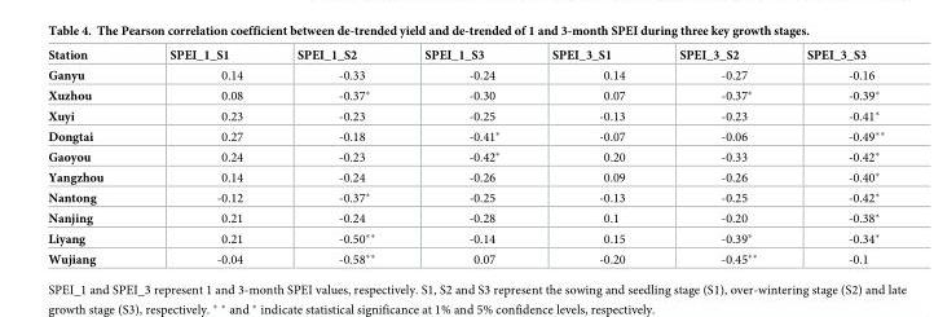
<table><thead><tr><td>Station</td><td>SPEI_1_S1</td><td>SPEI_1_S2</td><td>SPEI_1_S3</td><td>SPEI_3_S1</td><td>SPEI_3_S2</td><td>SPEI_3_S3</td></tr></thead><tbody><tr><td>Ganyu</td><td>0.14</td><td>-0.33</td><td>-0.24</td><td>0.14</td><td>-0.27</td><td>-0.16</td></tr><tr><td>Xuzhou</td><td>0.08</td><td>-0.37*</td><td>-0.30</td><td>0.07</td><td>-0.37*</td><td>-0.39*</td></tr><tr><td>Xuyi</td><td>0.23</td><td>-0.23</td><td>-0.25</td><td>-0.13</td><td>-0.23</td><td>-0.41*</td></tr><tr><td>Dongtai</td><td>0.27</td><td>-0.18</td><td>-0.41*</td><td>-0.07</td><td>-0.06</td><td>-0.49**</td></tr><tr><td>Gaoyou</td><td>0.24</td><td>-0.23</td><td>-0.42*</td><td>0.20</td><td>-0.33</td><td>-0.42*</td></tr><tr><td>Yangzhou</td><td>0.14</td><td>-0.24</td><td>-0.26</td><td>0.09</td><td>-0.26</td><td>-0.40*</td></tr><tr><td>Nantong</td><td>-0.12</td><td>-0.37*</td><td>-0.25</td><td>-0.13</td><td>-0.25</td><td>-0.42*</td></tr><tr><td>Nanjing</td><td>0.21</td><td>-0.24</td><td>-0.28</td><td>0.1</td><td>-0.20</td><td>-0.38*</td></tr><tr><td>Liyang</td><td>0.21</td><td>-0.50**</td><td>-0.14</td><td>0.15</td><td>-0.39*</td><td>-0.34*</td></tr><tr><td>Wujiang</td><td>-0.04</td><td>-0.58**</td><td>0.07</td><td>-0.20</td><td>-0.45**</td><td>-0.1</td></tr></tbody></table>